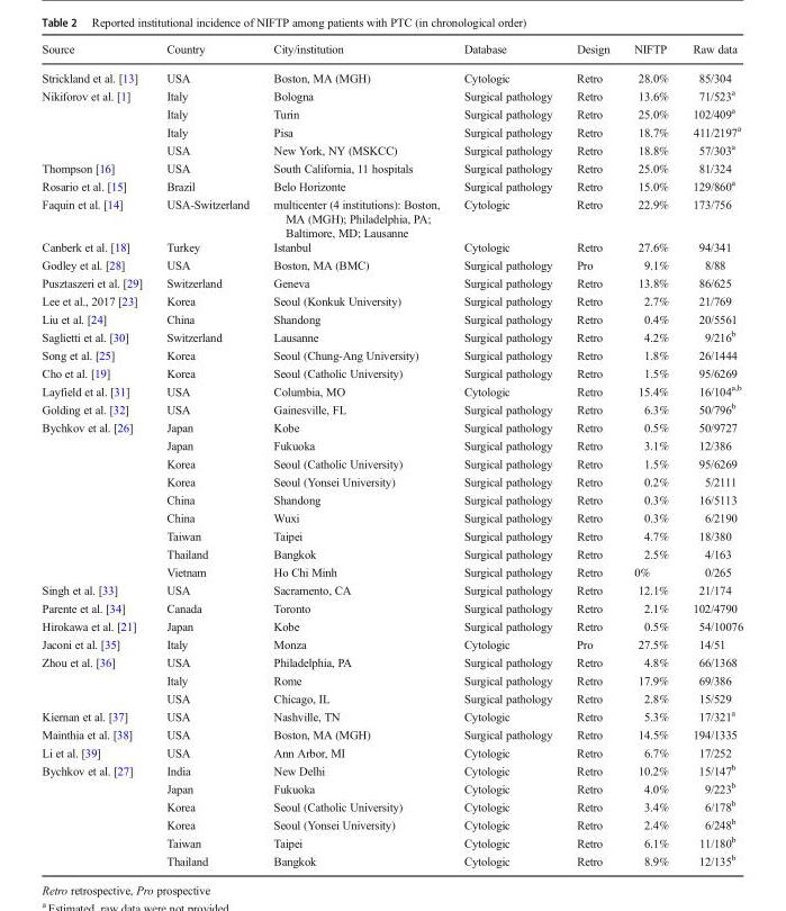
<table><thead><tr><td>Source</td><td>Country</td><td>City/institution</td><td>Database</td><td>Design</td><td>NIFTP</td><td>Raw data</td></tr></thead><tbody><tr><td>Strickland et al. [13]</td><td>USA</td><td>Boston, MA (MGH)</td><td>Cytologic</td><td>Retro</td><td>28.0%</td><td>85/304</td></tr><tr><td rowspan="4">Nikiforov et al. [1]</td><td>Italy</td><td>Bologna</td><td>Surgical pathology</td><td>Retro</td><td>13.6%</td><td>71/523<sup>a</sup></td></tr><tr><td>Italy</td><td>Turin</td><td>Surgical pathology</td><td>Retro</td><td>25.0%</td><td>102/409<sup>a</sup></td></tr><tr><td>Italy</td><td>Pisa</td><td>Surgical pathology</td><td>Retro</td><td>18.7%</td><td>411/2197<sup>a</sup></td></tr><tr><td>USA</td><td>New York, NY (MSKCC)</td><td>Surgical pathology</td><td>Retro</td><td>18.8%</td><td>57/303<sup>a</sup></td></tr><tr><td>Thompson [16]</td><td>USA</td><td>South California, 11 hospitals</td><td>Surgical pathology</td><td>Retro</td><td>25.0%</td><td>81/324</td></tr><tr><td>Rosario et al. [15]</td><td>Brazil</td><td>Belo Horizonte</td><td>Surgical pathology</td><td>Retro</td><td>15.0%</td><td>129/860<sup>a</sup></td></tr><tr><td>Faquin et al. [14]</td><td>USA-Switzerland</td><td>multicenter (4 institutions): Boston, MA (MGH); Philadelphia, PA; Baltimore, MD; Lausanne</td><td>Cytologic</td><td>Retro</td><td>22.9%</td><td>173/756</td></tr><tr><td>Canberk et al. [18]</td><td>Turkey</td><td>Istanbul</td><td>Cytologic</td><td>Retro</td><td>27.6%</td><td>94/341</td></tr><tr><td>Godley et al. [28]</td><td>USA</td><td>Boston, MA (BMC)</td><td>Surgical pathology</td><td>Pro</td><td>9.1%</td><td>8/88</td></tr><tr><td>Pusztaszeri et al. [29]</td><td>Switzerland</td><td>Geneva</td><td>Surgical pathology</td><td>Retro</td><td>13.8%</td><td>86/625</td></tr><tr><td>Lee et al., 2017 [23]</td><td>Korea</td><td>Seoul (Konkuk University)</td><td>Surgical pathology</td><td>Retro</td><td>2.7%</td><td>21/769</td></tr><tr><td>Liu et al. [24]</td><td>China</td><td>Shandong</td><td>Surgical pathology</td><td>Retro</td><td>0.4%</td><td>20/5561</td></tr><tr><td>Saglietti et al. [30]</td><td>Switzerland</td><td>Lausanne</td><td>Surgical pathology</td><td>Retro</td><td>4.2%</td><td>9/216<sup>b</sup></td></tr><tr><td>Song et al. [25]</td><td>Korea</td><td>Seoul (Chung-Ang University)</td><td>Surgical pathology</td><td>Retro</td><td>1.8%</td><td>26/1444</td></tr><tr><td>Cho et al. [19]</td><td>Korea</td><td>Seoul (Catholic University)</td><td>Surgical pathology</td><td>Retro</td><td>1.5%</td><td>95/6269</td></tr><tr><td>Layfield et al. [31]</td><td>USA</td><td>Columbia, MO</td><td>Cytologic</td><td>Retro</td><td>15.4%</td><td>16/104<sup>a,b</sup></td></tr><tr><td>Golding et al. [32]</td><td>USA</td><td>Gainesville, FL</td><td>Surgical pathology</td><td>Retro</td><td>6.3%</td><td>50/796<sup>b</sup></td></tr><tr><td rowspan="9">Bychkov et al. [26]</td><td>Japan</td><td>Kobe</td><td>Surgical pathology</td><td>Retro</td><td>0.5%</td><td>50/9727</td></tr><tr><td>Japan</td><td>Fukuoka</td><td>Surgical pathology</td><td>Retro</td><td>3.1%</td><td>12/386</td></tr><tr><td>Korea</td><td>Seoul (Catholic University)</td><td>Surgical pathology</td><td>Retro</td><td>1.5%</td><td>95/6269</td></tr><tr><td>Korea</td><td>Seoul (Yonsei University)</td><td>Surgical pathology</td><td>Retro</td><td>0.2%</td><td>5/2111</td></tr><tr><td>China</td><td>Shandong</td><td>Surgical pathology</td><td>Retro</td><td>0.3%</td><td>16/5113</td></tr><tr><td>China</td><td>Wuxi</td><td>Surgical pathology</td><td>Retro</td><td>0.3%</td><td>6/2190</td></tr><tr><td>Taiwan</td><td>Taipei</td><td>Surgical pathology</td><td>Retro</td><td>4.7%</td><td>18/380</td></tr><tr><td>Thailand</td><td>Bangkok</td><td>Surgical pathology</td><td>Retro</td><td>2.5%</td><td>4/163</td></tr><tr><td>Vietnam</td><td>Ho Chi Minh</td><td>Surgical pathology</td><td>Retro</td><td>0%</td><td>0/265</td></tr><tr><td>Singh et al. [33]</td><td>USA</td><td>Sacramento, CA</td><td>Surgical pathology</td><td>Retro</td><td>12.1%</td><td>21/174</td></tr><tr><td>Parente et al. [34]</td><td>Canada</td><td>Toronto</td><td>Surgical pathology</td><td>Retro</td><td>2.1%</td><td>102/4790</td></tr><tr><td>Hirokawa et al. [21]</td><td>Japan</td><td>Kobe</td><td>Surgical pathology</td><td>Retro</td><td>0.5%</td><td>54/10076</td></tr><tr><td>Jaconi et al. [35]</td><td>Italy</td><td>Monza</td><td>Cytologic</td><td>Pro</td><td>27.5%</td><td>14/51</td></tr><tr><td rowspan="3">Zhou et al. [36]</td><td>USA</td><td>Philadelphia, PA</td><td>Surgical pathology</td><td>Retro</td><td>4.8%</td><td>66/1368</td></tr><tr><td>Italy</td><td>Rome</td><td>Surgical pathology</td><td>Retro</td><td>17.9%</td><td>69/386</td></tr><tr><td>USA</td><td>Chicago, IL</td><td>Surgical pathology</td><td>Retro</td><td>2.8%</td><td>15/529</td></tr><tr><td>Kiernan et al. [37]</td><td>USA</td><td>Nashville, TN</td><td>Cytologic</td><td>Retro</td><td>5.3%</td><td>17/321<sup>a</sup></td></tr><tr><td>Mainthia et al. [38]</td><td>USA</td><td>Boston, MA (MGH)</td><td>Surgical pathology</td><td>Retro</td><td>14.5%</td><td>194/1335</td></tr><tr><td>Li et al. [39]</td><td>USA</td><td>Ann Arbor, MI</td><td>Cytologic</td><td>Retro</td><td>6.7%</td><td>17/252</td></tr><tr><td rowspan="6">Bychkov et al. [27]</td><td>India</td><td>New Delhi</td><td>Cytologic</td><td>Retro</td><td>10.2%</td><td>15/147<sup>b</sup></td></tr><tr><td>Japan</td><td>Fukuoka</td><td>Cytologic</td><td>Retro</td><td>4.0%</td><td>9/223<sup>b</sup></td></tr><tr><td>Korea</td><td>Seoul (Catholic University)</td><td>Cytologic</td><td>Retro</td><td>3.4%</td><td>6/178<sup>b</sup></td></tr><tr><td>Korea</td><td>Seoul (Yonsei University)</td><td>Cytologic</td><td>Retro</td><td>2.4%</td><td>6/248<sup>b</sup></td></tr><tr><td>Taiwan</td><td>Taipei</td><td>Cytologic</td><td>Retro</td><td>6.1%</td><td>11/180<sup>b</sup></td></tr><tr><td>Thailand</td><td>Bangkok</td><td>Cytologic</td><td>Retro</td><td>8.9%</td><td>12/135<sup>b</sup></td></tr></tbody></table>